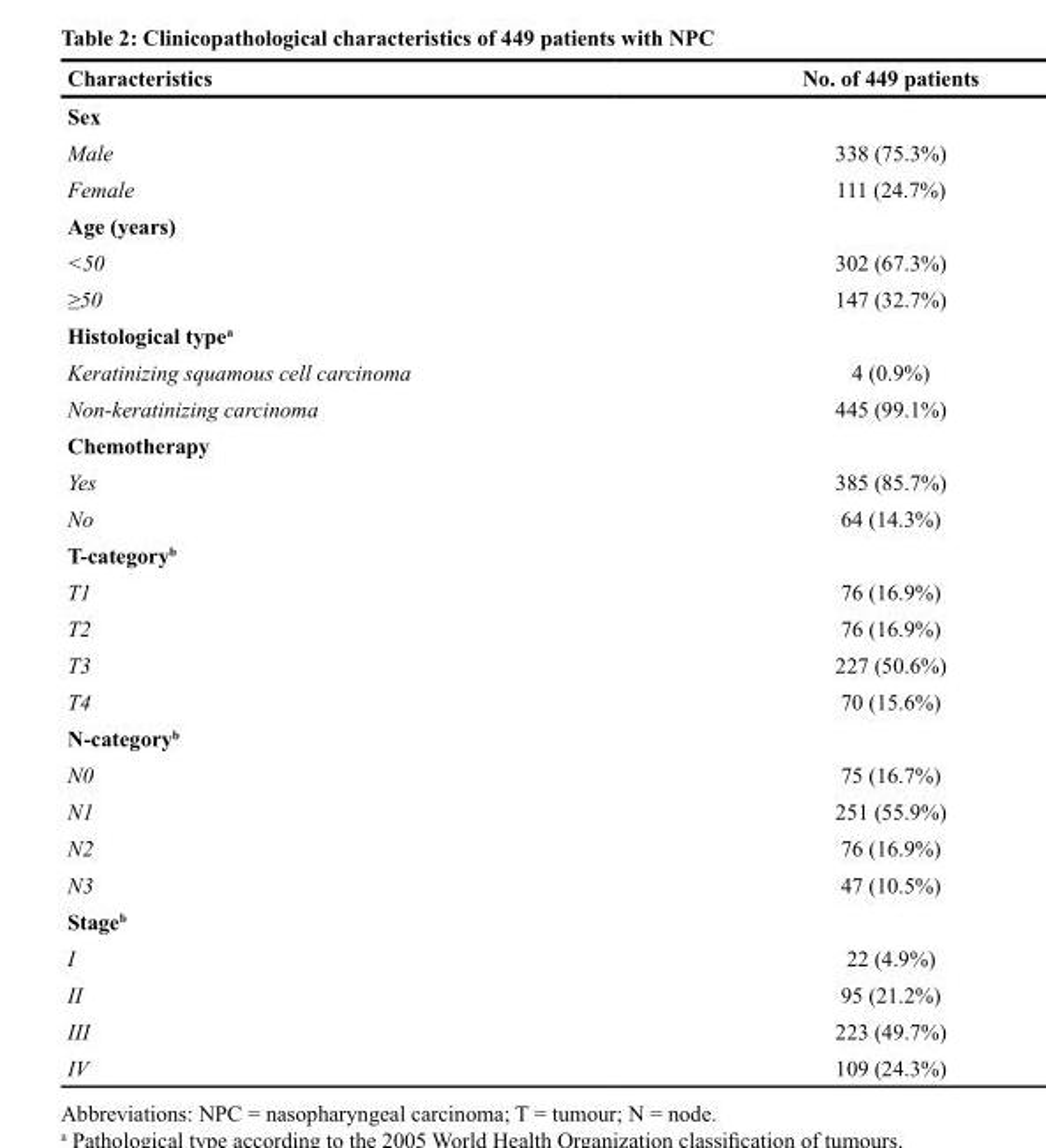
<table><thead><tr><td>Characteristics</td><td>No. of 449 patients</td></tr></thead><tbody><tr><td colspan="2">Sex</td></tr><tr><td>Male</td><td>338 (75.3%)</td></tr><tr><td>Female</td><td>111 (24.7%)</td></tr><tr><td colspan="2">Age (years)</td></tr><tr><td>&lt;50</td><td>302 (67.3%)</td></tr><tr><td>≥50</td><td>147 (32.7%)</td></tr><tr><td colspan="2">Histological type<sup>a</sup></td></tr><tr><td>Keratinizing squamous cell carcinoma</td><td>4 (0.9%)</td></tr><tr><td>Non-keratinizing carcinoma</td><td>445 (99.1%)</td></tr><tr><td colspan="2">Chemotherapy</td></tr><tr><td>Yes</td><td>385 (85.7%)</td></tr><tr><td>No</td><td>64 (14.3%)</td></tr><tr><td colspan="2">T-category<sup>b</sup></td></tr><tr><td>T1</td><td>76 (16.9%)</td></tr><tr><td>T2</td><td>76 (16.9%)</td></tr><tr><td>T3</td><td>227 (50.6%)</td></tr><tr><td>T4</td><td>70 (15.6%)</td></tr><tr><td colspan="2">N-category<sup>b</sup></td></tr><tr><td>N0</td><td>75 (16.7%)</td></tr><tr><td>N1</td><td>251 (55.9%)</td></tr><tr><td>N2</td><td>76 (16.9%)</td></tr><tr><td>N3</td><td>47 (10.5%)</td></tr><tr><td colspan="2">Stage<sup>b</sup></td></tr><tr><td>I</td><td>22 (4.9%)</td></tr><tr><td>II</td><td>95 (21.2%)</td></tr><tr><td>III</td><td>223 (49.7%)</td></tr><tr><td>IV</td><td>109 (24.3%)</td></tr></tbody></table>